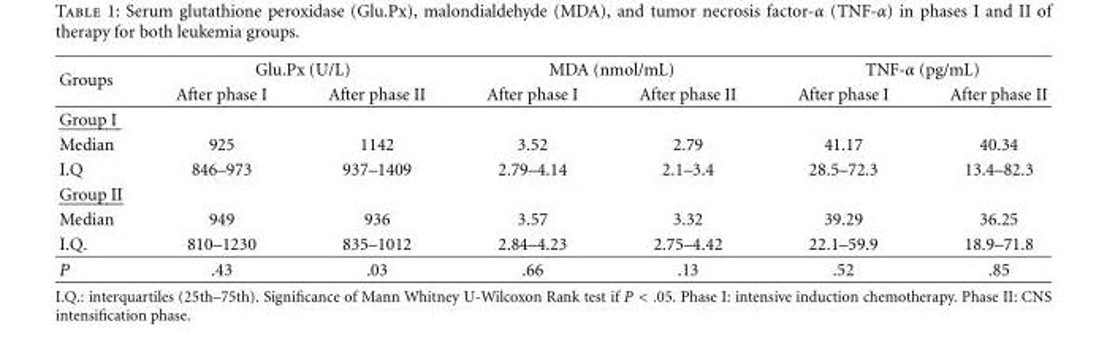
<table><thead><tr><td rowspan="2">Groups</td><td colspan="2">Glu.Px (U/L)</td><td colspan="2">MDA (nmol/mL)</td><td colspan="2">TNF-α (pg/mL)</td></tr><tr><td>After phase I</td><td>After phase II</td><td>After phase I</td><td>After phase II</td><td>After phase I</td><td>After phase II</td></tr></thead><tbody><tr><td colspan="7">Group I</td></tr><tr><td>Median</td><td>925</td><td>1142</td><td>3.52</td><td>2.79</td><td>41.17</td><td>40.34</td></tr><tr><td>I.Q</td><td>846–973</td><td>937–1409</td><td>2.79–4.14</td><td>2.1–3.4</td><td>28.5–72.3</td><td>13.4–82.3</td></tr><tr><td colspan="7">Group II</td></tr><tr><td>Median</td><td>949</td><td>936</td><td>3.57</td><td>3.32</td><td>39.29</td><td>36.25</td></tr><tr><td>I.Q.</td><td>810–1230</td><td>835–1012</td><td>2.84–4.23</td><td>2.75–4.42</td><td>22.1–59.9</td><td>18.9–71.8</td></tr><tr><td>P</td><td>.43</td><td>.03</td><td>.66</td><td>.13</td><td>.52</td><td>.85</td></tr></tbody></table>